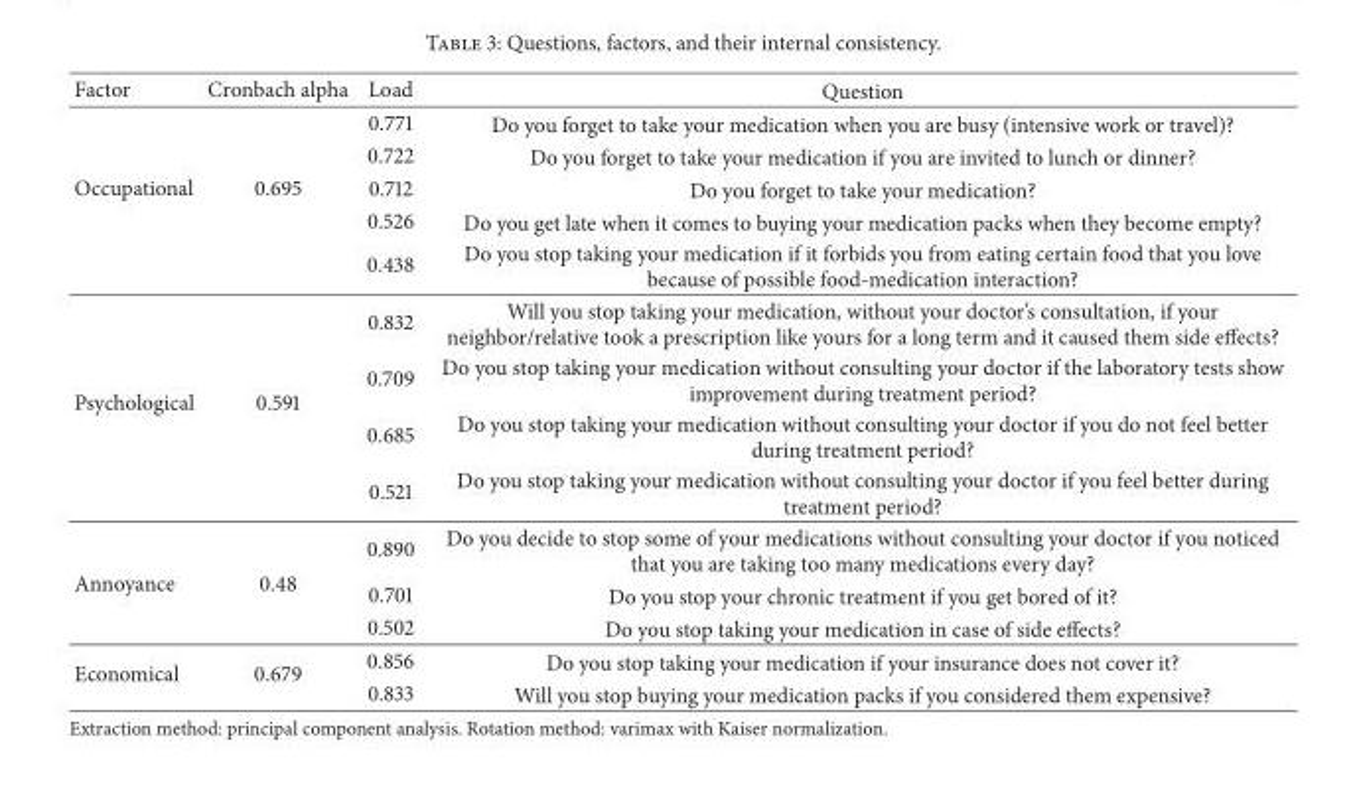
<table><thead><tr><td>Factor</td><td>Cronbach alpha</td><td>Load</td><td>Question</td></tr></thead><tbody><tr><td rowspan="5">Occupational</td><td rowspan="5">0.695</td><td>0.771</td><td>Do you forget to take your medication when you are busy (intensive work or travel)?</td></tr><tr><td>0.722</td><td>Do you forget to take your medication if you are invited to lunch or dinner?</td></tr><tr><td>0.712</td><td>Do you forget to take your medication?</td></tr><tr><td>0.526</td><td>Do you get late when it comes to buying your medication packs when they become empty?</td></tr><tr><td>0.438</td><td>Do you stop taking your medication if it forbids you from eating certain food that you love because of possible food-medication interaction?</td></tr><tr><td rowspan="4">Psychological</td><td rowspan="4">0.591</td><td>0.832</td><td>Will you stop taking your medication, without your doctor’s consultation, if your neighbor/relative took a prescription like yours for a long term and it caused them side effects?</td></tr><tr><td>0.709</td><td>Do you stop taking your medication without consulting your doctor if the laboratory tests show improvement during treatment period?</td></tr><tr><td>0.685</td><td>Do you stop taking your medication without consulting your doctor if you do not feel better during treatment period?</td></tr><tr><td>0.521</td><td>Do you stop taking your medication without consulting your doctor if you feel better during treatment period?</td></tr><tr><td rowspan="3">Annoyance</td><td rowspan="3">0.48</td><td>0.890</td><td>Do you decide to stop some of your medications without consulting your doctor if you noticed that you are taking too many medications every day?</td></tr><tr><td>0.701</td><td>Do you stop your chronic treatment if you get bored of it?</td></tr><tr><td>0.502</td><td>Do you stop taking your medication in case of side effects?</td></tr><tr><td rowspan="2">Economical</td><td rowspan="2">0.679</td><td>0.856</td><td>Do you stop taking your medication if your insurance does not cover it?</td></tr><tr><td>0.833</td><td>Will you stop buying your medication packs if you considered them expensive?</td></tr></tbody></table>